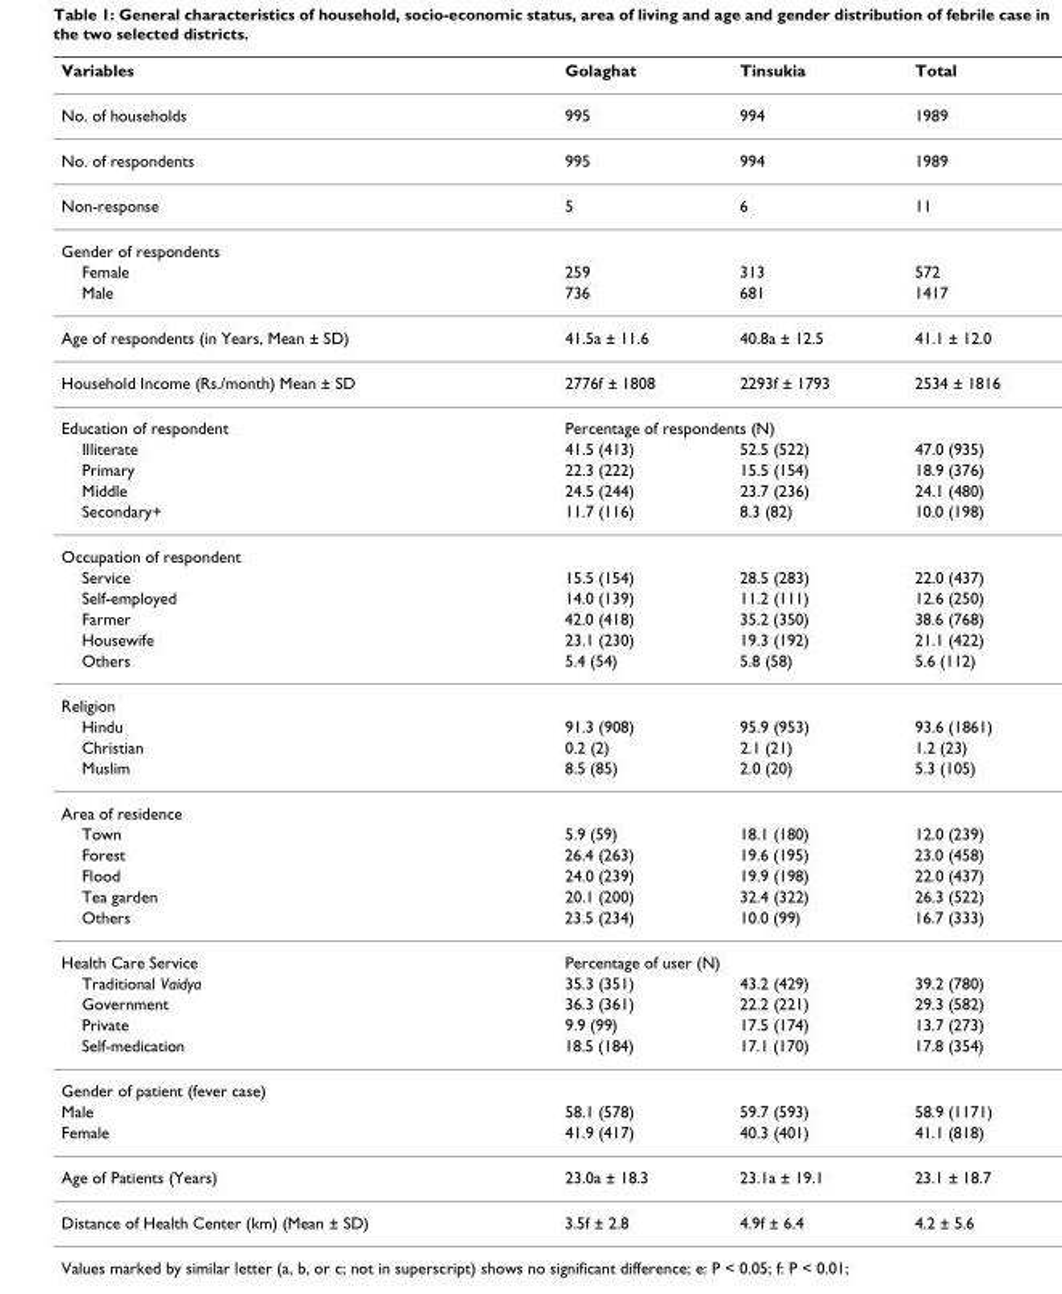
<table><thead><tr><td>Variables</td><td>Golaghat</td><td>Tinsukia</td><td>Total</td></tr></thead><tbody><tr><td>No. of households</td><td>995</td><td>994</td><td>1989</td></tr><tr><td>No. of respondents</td><td>995</td><td>994</td><td>1989</td></tr><tr><td>Non-response</td><td>5</td><td>6</td><td>11</td></tr><tr><td colspan="4">Gender of respondents</td></tr><tr><td>Female</td><td>259</td><td>313</td><td>572</td></tr><tr><td>Male</td><td>736</td><td>681</td><td>1417</td></tr><tr><td>Age of respondents (in Years, Mean ± SD)</td><td>41.5a ± 11.6</td><td>40.8a ± 12.5</td><td>41.1 ± 12.0</td></tr><tr><td>Household Income (Rs./month) Mean ± SD</td><td>2776f ± 1808</td><td>2293f ± 1793</td><td>2534 ± 1816</td></tr><tr><td>Education of respondent</td><td colspan="2">Percentage of respondents (N)</td><td></td></tr><tr><td>Illiterate</td><td>41.5 (413)</td><td>52.5 (522)</td><td>47.0 (935)</td></tr><tr><td>Primary</td><td>22.3 (222)</td><td>15.5 (154)</td><td>18.9 (376)</td></tr><tr><td>Middle</td><td>24.5 (244)</td><td>23.7 (236)</td><td>24.1 (480)</td></tr><tr><td>Secondary+</td><td>11.7 (116)</td><td>8.3 (82)</td><td>10.0 (198)</td></tr><tr><td colspan="4">Occupation of respondent</td></tr><tr><td>Service</td><td>15.5 (154)</td><td>28.5 (283)</td><td>22.0 (437)</td></tr><tr><td>Self-employed</td><td>14.0 (139)</td><td>11.2 (111)</td><td>12.6 (250)</td></tr><tr><td>Farmer</td><td>42.0 (418)</td><td>35.2 (350)</td><td>38.6 (768)</td></tr><tr><td>Housewife</td><td>23.1 (230)</td><td>19.3 (192)</td><td>21.1 (422)</td></tr><tr><td>Others</td><td>5.4 (54)</td><td>5.8 (58)</td><td>5.6 (112)</td></tr><tr><td colspan="4">Religion</td></tr><tr><td>Hindu</td><td>91.3 (908)</td><td>95.9 (953)</td><td>93.6 (1861)</td></tr><tr><td>Christian</td><td>0.2 (2)</td><td>2.1 (21)</td><td>1.2 (23)</td></tr><tr><td>Muslim</td><td>8.5 (85)</td><td>2.0 (20)</td><td>5.3 (105)</td></tr><tr><td colspan="4">Area of residence</td></tr><tr><td>Town</td><td>5.9 (59)</td><td>18.1 (180)</td><td>12.0 (239)</td></tr><tr><td>Forest</td><td>26.4 (263)</td><td>19.6 (195)</td><td>23.0 (458)</td></tr><tr><td>Flood</td><td>24.0 (239)</td><td>19.9 (198)</td><td>22.0 (437)</td></tr><tr><td>Tea garden</td><td>20.1 (200)</td><td>32.4 (322)</td><td>26.3 (522)</td></tr><tr><td>Others</td><td>23.5 (234)</td><td>10.0 (99)</td><td>16.7 (333)</td></tr><tr><td>Health Care Service</td><td colspan="2">Percentage of user (N)</td><td></td></tr><tr><td>Traditional Vaidya</td><td>35.3 (351)</td><td>43.2 (429)</td><td>39.2 (780)</td></tr><tr><td>Government</td><td>36.3 (361)</td><td>22.2 (221)</td><td>29.3 (582)</td></tr><tr><td>Private</td><td>9.9 (99)</td><td>17.5 (174)</td><td>13.7 (273)</td></tr><tr><td>Self-medication</td><td>18.5 (184)</td><td>17.1 (170)</td><td>17.8 (354)</td></tr><tr><td colspan="4">Gender of patient (fever case)</td></tr><tr><td>Male</td><td>58.1 (578)</td><td>59.7 (593)</td><td>58.9 (1171)</td></tr><tr><td>Female</td><td>41.9 (417)</td><td>40.3 (401)</td><td>41.1 (818)</td></tr><tr><td>Age of Patients (Years)</td><td>23.0a ± 18.3</td><td>23.1a ± 19.1</td><td>23.1 ± 18.7</td></tr><tr><td>Distance of Health Center (km) (Mean ± SD)</td><td>3.5f ± 2.8</td><td>4.9f ± 6.4</td><td>4.2 ± 5.6</td></tr></tbody></table>